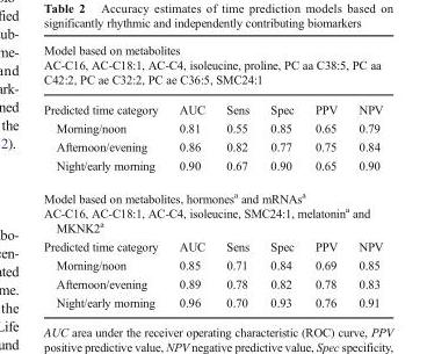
<table><thead><tr><td colspan="6">Model based on metabolites AC-C16, AC-C18:1, AC-C4, isoleucine, proline, PC aa C38:5, PC aa C42:2, PC ae C32:2, PC ae C36:5, SMC24:1</td></tr><tr><td>Predicted time category</td><td>AUC</td><td>Sens</td><td>Spec</td><td>PPV</td><td>NPV</td></tr></thead><tbody><tr><td>Morning/noon</td><td>0.81</td><td>0.55</td><td>0.85</td><td>0.65</td><td>0.79</td></tr><tr><td>Afternoon/evening</td><td>0.86</td><td>0.82</td><td>0.77</td><td>0.75</td><td>0.84</td></tr><tr><td>Night/early morning</td><td>0.90</td><td>0.67</td><td>0.90</td><td>0.65</td><td>0.90</td></tr><tr><td colspan="6">Model based on metabolites, hormonesa and mRNAsa AC-C16, AC-C18:1, AC-C4, isoleucine, SMC24:1, melatonina and MKNK2a</td></tr><tr><td>Predicted time category</td><td>AUC</td><td>Sens</td><td>Spec</td><td>PPV</td><td>NPV</td></tr><tr><td>Morning/noon</td><td>0.85</td><td>0.71</td><td>0.84</td><td>0.69</td><td>0.85</td></tr><tr><td>Afternoon/evening</td><td>0.89</td><td>0.78</td><td>0.82</td><td>0.78</td><td>0.83</td></tr><tr><td>Night/early morning</td><td>0.96</td><td>0.70</td><td>0.93</td><td>0.76</td><td>0.91</td></tr></tbody></table>